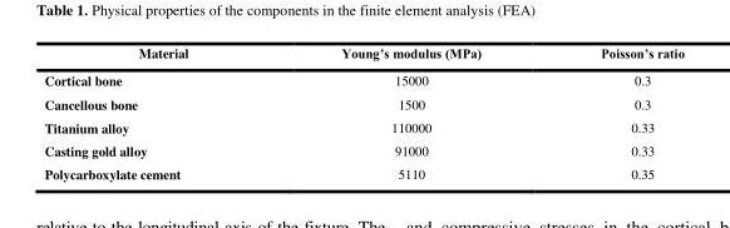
<table><thead><tr><td>Material</td><td>Young’s modulus (MPa)</td><td>Poisson’s ratio</td></tr></thead><tbody><tr><td>Cortical bone</td><td>15000</td><td>0.3</td></tr><tr><td>Cancellous bone</td><td>1500</td><td>0.3</td></tr><tr><td>Titanium alloy</td><td>110000</td><td>0.33</td></tr><tr><td>Casting gold alloy</td><td>91000</td><td>0.33</td></tr><tr><td>Polycarboxylate cement</td><td>5110</td><td>0.35</td></tr></tbody></table>